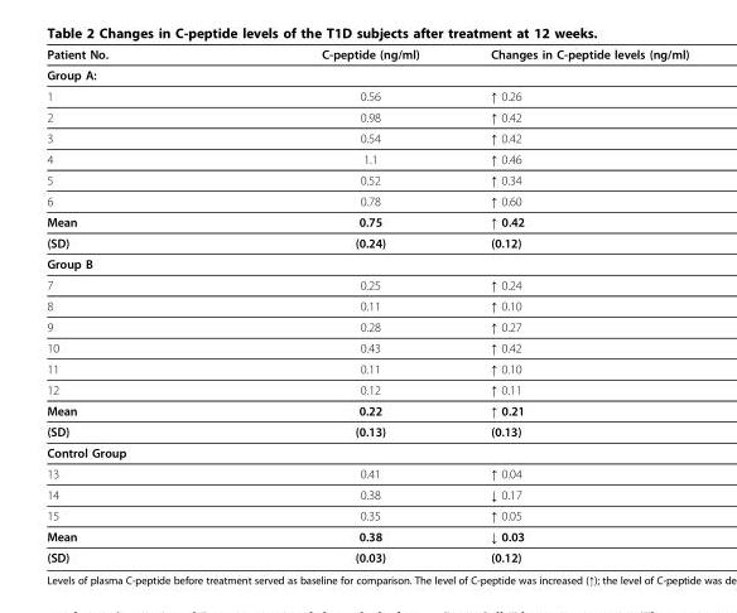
<table><thead><tr><td>Patient No.</td><td>C-peptide (ng/ml)</td><td>Changes in C-peptide levels (ng/ml)</td></tr></thead><tbody><tr><td colspan="3">Group A:</td></tr><tr><td>1</td><td>0.56</td><td>↑ 0.26</td></tr><tr><td>2</td><td>0.98</td><td>↑ 0.42</td></tr><tr><td>3</td><td>0.54</td><td>↑ 0.42</td></tr><tr><td>4</td><td>1.1</td><td>↑ 0.46</td></tr><tr><td>5</td><td>0.52</td><td>↑ 0.34</td></tr><tr><td>6</td><td>0.78</td><td>↑ 0.60</td></tr><tr><td>Mean</td><td>0.75</td><td>↑ 0.42</td></tr><tr><td>(SD)</td><td>(0.24)</td><td>(0.12)</td></tr><tr><td colspan="3">Group B</td></tr><tr><td>7</td><td>0.25</td><td>↑ 0.24</td></tr><tr><td>8</td><td>0.11</td><td>↑ 0.10</td></tr><tr><td>9</td><td>0.28</td><td>↑ 0.27</td></tr><tr><td>10</td><td>0.43</td><td>↑ 0.42</td></tr><tr><td>11</td><td>0.11</td><td>↑ 0.10</td></tr><tr><td>12</td><td>0.12</td><td>↑ 0.11</td></tr><tr><td>Mean</td><td>0.22</td><td>↑ 0.21</td></tr><tr><td>(SD)</td><td>(0.13)</td><td>(0.13)</td></tr><tr><td colspan="3">Control Group</td></tr><tr><td>13</td><td>0.41</td><td>↑ 0.04</td></tr><tr><td>14</td><td>0.38</td><td>↓ 0.17</td></tr><tr><td>15</td><td>0.35</td><td>↑ 0.05</td></tr><tr><td>Mean</td><td>0.38</td><td>↓ 0.03</td></tr><tr><td>(SD)</td><td>(0.03)</td><td>(0.12)</td></tr></tbody></table>